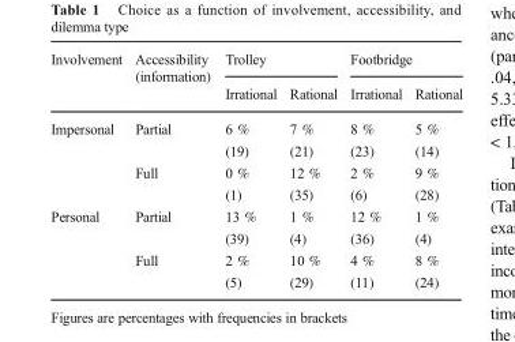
<table><thead><tr><td rowspan="2">Involvement</td><td rowspan="2">Accessibility (information)</td><td colspan="2">Trolley</td><td colspan="2">Footbridge</td></tr><tr><td>Irrational</td><td>Rational</td><td>Irrational</td><td>Rational</td></tr></thead><tbody><tr><td rowspan="4">Impersonal</td><td rowspan="2">Partial</td><td>6 %</td><td>7 %</td><td>8 %</td><td>5 %</td></tr><tr><td>(19)</td><td>(21)</td><td>(23)</td><td>(14)</td></tr><tr><td rowspan="2">Full</td><td>0 %</td><td>12 %</td><td>2 %</td><td>9 %</td></tr><tr><td>(1)</td><td>(35)</td><td>(6)</td><td>(28)</td></tr><tr><td rowspan="4">Personal</td><td rowspan="2">Partial</td><td>13 %</td><td>1 %</td><td>12 %</td><td>1 %</td></tr><tr><td>(39)</td><td>(4)</td><td>(36)</td><td>(4)</td></tr><tr><td rowspan="2">Full</td><td>2 %</td><td>10 %</td><td>4 %</td><td>8 %</td></tr><tr><td>(5)</td><td>(29)</td><td>(11)</td><td>(24)</td></tr></tbody></table>